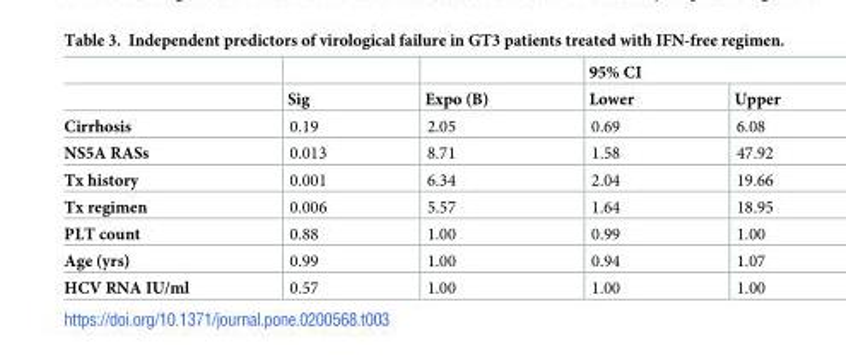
<table><thead><tr><td rowspan="2"></td><td rowspan="2">Sig</td><td rowspan="2">Expo (B)</td><td colspan="2">95% CI</td></tr><tr><td>Lower</td><td>Upper</td></tr></thead><tbody><tr><td>Cirrhosis</td><td>0.19</td><td>2.05</td><td>0.69</td><td>6.08</td></tr><tr><td>NS5A RASs</td><td>0.013</td><td>8.71</td><td>1.58</td><td>47.92</td></tr><tr><td>Tx history</td><td>0.001</td><td>6.34</td><td>2.04</td><td>19.66</td></tr><tr><td>Tx regimen</td><td>0.006</td><td>5.57</td><td>1.64</td><td>18.95</td></tr><tr><td>PLT count</td><td>0.88</td><td>1.00</td><td>0.99</td><td>1.00</td></tr><tr><td>Age (yrs)</td><td>0.99</td><td>1.00</td><td>0.94</td><td>1.07</td></tr><tr><td>HCV RNA IU/ml</td><td>0.57</td><td>1.00</td><td>1.00</td><td>1.00</td></tr></tbody></table>